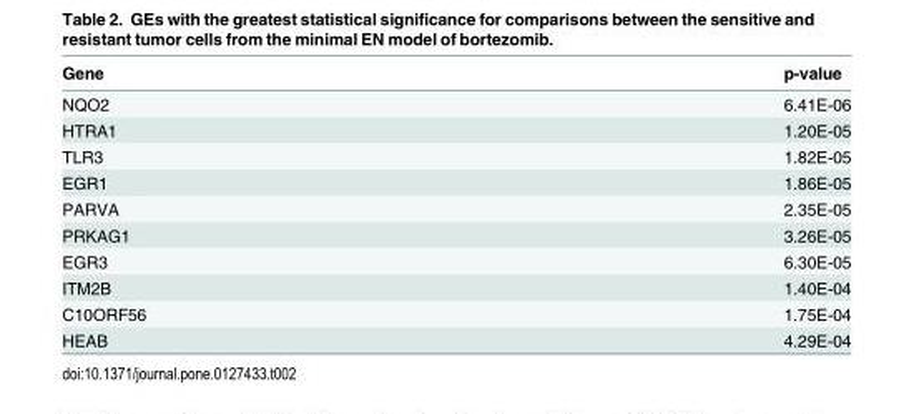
<table><thead><tr><td>Gene</td><td>p-value</td></tr></thead><tbody><tr><td>NQO2</td><td>6.41E-06</td></tr><tr><td>HTRA1</td><td>1.20E-05</td></tr><tr><td>TLR3</td><td>1.82E-05</td></tr><tr><td>EGR1</td><td>1.86E-05</td></tr><tr><td>PARVA</td><td>2.35E-05</td></tr><tr><td>PRKAG1</td><td>3.26E-05</td></tr><tr><td>EGR3</td><td>6.30E-05</td></tr><tr><td>ITM2B</td><td>1.40E-04</td></tr><tr><td>C10ORF56</td><td>1.75E-04</td></tr><tr><td>HEAB</td><td>4.29E-04</td></tr></tbody></table>